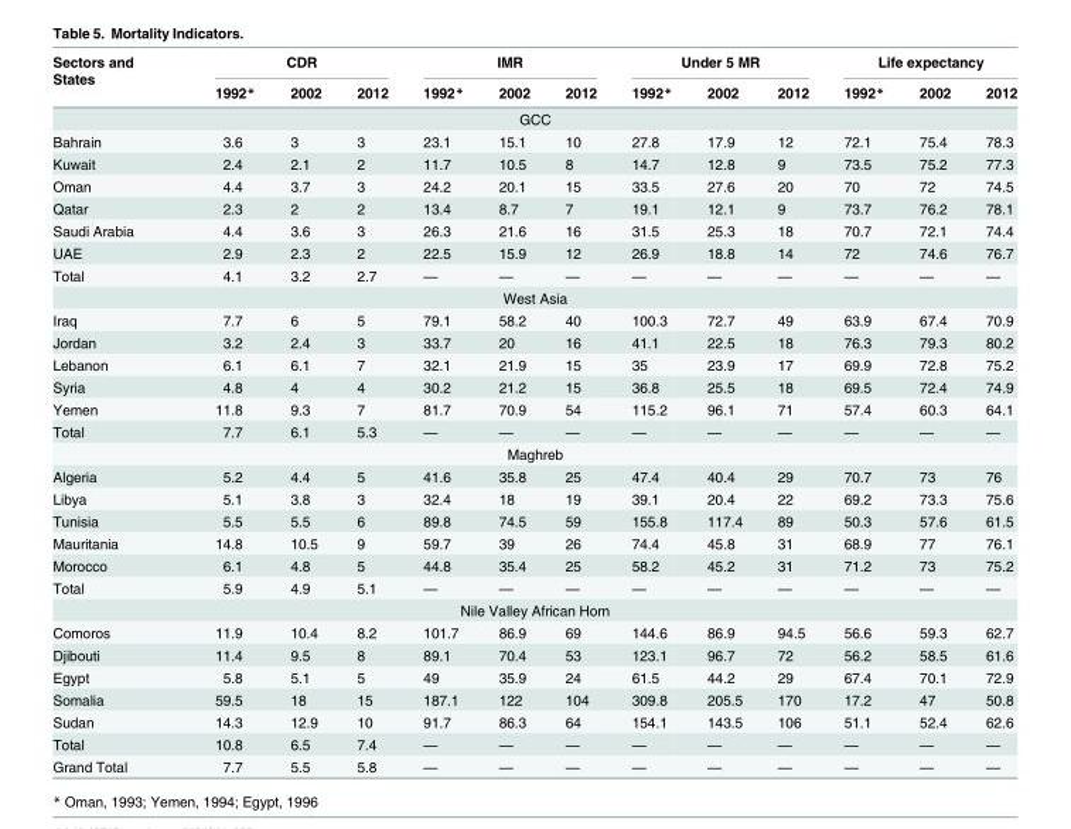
<table><thead><tr><td rowspan="2">Sectors and States</td><td colspan="3">CDR</td><td colspan="3">IMR</td><td colspan="3">Under 5 MR</td><td colspan="3">Life expectancy</td></tr><tr><td>1992*</td><td>2002</td><td>2012</td><td>1992*</td><td>2002</td><td>2012</td><td>1992*</td><td>2002</td><td>2012</td><td>1992*</td><td>2002</td><td>2012</td></tr></thead><tbody><tr><td colspan="13">GCC</td></tr><tr><td>Bahrain</td><td>3.6</td><td>3</td><td>3</td><td>23.1</td><td>15.1</td><td>10</td><td>27.8</td><td>17.9</td><td>12</td><td>72.1</td><td>75.4</td><td>78.3</td></tr><tr><td>Kuwait</td><td>2.4</td><td>2.1</td><td>2</td><td>11.7</td><td>10.5</td><td>8</td><td>14.7</td><td>12.8</td><td>9</td><td>73.5</td><td>75.2</td><td>77.3</td></tr><tr><td>Oman</td><td>4.4</td><td>3.7</td><td>3</td><td>24.2</td><td>20.1</td><td>15</td><td>33.5</td><td>27.6</td><td>20</td><td>70</td><td>72</td><td>74.5</td></tr><tr><td>Qatar</td><td>2.3</td><td>2</td><td>2</td><td>13.4</td><td>8.7</td><td>7</td><td>19.1</td><td>12.1</td><td>9</td><td>73.7</td><td>76.2</td><td>78.1</td></tr><tr><td>Saudi Arabia</td><td>4.4</td><td>3.6</td><td>3</td><td>26.3</td><td>21.6</td><td>16</td><td>31.5</td><td>25.3</td><td>18</td><td>70.7</td><td>72.1</td><td>74.4</td></tr><tr><td>UAE</td><td>2.9</td><td>2.3</td><td>2</td><td>22.5</td><td>15.9</td><td>12</td><td>26.9</td><td>18.8</td><td>14</td><td>72</td><td>74.6</td><td>76.7</td></tr><tr><td>Total</td><td>4.1</td><td>3.2</td><td>2.7</td><td>—</td><td>—</td><td>—</td><td>—</td><td>—</td><td>—</td><td>—</td><td>—</td><td>—</td></tr><tr><td colspan="13">West Asia</td></tr><tr><td>Iraq</td><td>7.7</td><td>6</td><td>5</td><td>79.1</td><td>58.2</td><td>40</td><td>100.3</td><td>72.7</td><td>49</td><td>63.9</td><td>67.4</td><td>70.9</td></tr><tr><td>Jordan</td><td>3.2</td><td>2.4</td><td>3</td><td>33.7</td><td>20</td><td>16</td><td>41.1</td><td>22.5</td><td>18</td><td>76.3</td><td>79.3</td><td>80.2</td></tr><tr><td>Lebanon</td><td>6.1</td><td>6.1</td><td>7</td><td>32.1</td><td>21.9</td><td>15</td><td>35</td><td>23.9</td><td>17</td><td>69.9</td><td>72.8</td><td>75.2</td></tr><tr><td>Syria</td><td>4.8</td><td>4</td><td>4</td><td>30.2</td><td>21.2</td><td>15</td><td>36.8</td><td>25.5</td><td>18</td><td>69.5</td><td>72.4</td><td>74.9</td></tr><tr><td>Yemen</td><td>11.8</td><td>9.3</td><td>7</td><td>81.7</td><td>70.9</td><td>54</td><td>115.2</td><td>96.1</td><td>71</td><td>57.4</td><td>60.3</td><td>64.1</td></tr><tr><td>Total</td><td>7.7</td><td>6.1</td><td>5.3</td><td>—</td><td>—</td><td>—</td><td>—</td><td>—</td><td>—</td><td>—</td><td>—</td><td>—</td></tr><tr><td colspan="13">Maghreb</td></tr><tr><td>Algeria</td><td>5.2</td><td>4.4</td><td>5</td><td>41.6</td><td>35.8</td><td>25</td><td>47.4</td><td>40.4</td><td>29</td><td>70.7</td><td>73</td><td>76</td></tr><tr><td>Libya</td><td>5.1</td><td>3.8</td><td>3</td><td>32.4</td><td>18</td><td>19</td><td>39.1</td><td>20.4</td><td>22</td><td>69.2</td><td>73.3</td><td>75.6</td></tr><tr><td>Tunisia</td><td>5.5</td><td>5.5</td><td>6</td><td>89.8</td><td>74.5</td><td>59</td><td>155.8</td><td>117.4</td><td>89</td><td>50.3</td><td>57.6</td><td>61.5</td></tr><tr><td>Mauritania</td><td>14.8</td><td>10.5</td><td>9</td><td>59.7</td><td>39</td><td>26</td><td>74.4</td><td>45.8</td><td>31</td><td>68.9</td><td>77</td><td>76.1</td></tr><tr><td>Morocco</td><td>6.1</td><td>4.8</td><td>5</td><td>44.8</td><td>35.4</td><td>25</td><td>58.2</td><td>45.2</td><td>31</td><td>71.2</td><td>73</td><td>75.2</td></tr><tr><td>Total</td><td>5.9</td><td>4.9</td><td>5.1</td><td>—</td><td>—</td><td>—</td><td>—</td><td>—</td><td>—</td><td>—</td><td>—</td><td>—</td></tr><tr><td colspan="13">Nile Valley African Horn</td></tr><tr><td>Comoros</td><td>11.9</td><td>10.4</td><td>8.2</td><td>101.7</td><td>86.9</td><td>69</td><td>144.6</td><td>86.9</td><td>94.5</td><td>56.6</td><td>59.3</td><td>62.7</td></tr><tr><td>Djibouti</td><td>11.4</td><td>9.5</td><td>8</td><td>89.1</td><td>70.4</td><td>53</td><td>123.1</td><td>96.7</td><td>72</td><td>56.2</td><td>58.5</td><td>61.6</td></tr><tr><td>Egypt</td><td>5.8</td><td>5.1</td><td>5</td><td>49</td><td>35.9</td><td>24</td><td>61.5</td><td>44.2</td><td>29</td><td>67.4</td><td>70.1</td><td>72.9</td></tr><tr><td>Somalia</td><td>59.5</td><td>18</td><td>15</td><td>187.1</td><td>122</td><td>104</td><td>309.8</td><td>205.5</td><td>170</td><td>17.2</td><td>47</td><td>50.8</td></tr><tr><td>Sudan</td><td>14.3</td><td>12.9</td><td>10</td><td>91.7</td><td>86.3</td><td>64</td><td>154.1</td><td>143.5</td><td>106</td><td>51.1</td><td>52.4</td><td>62.6</td></tr><tr><td>Total</td><td>10.8</td><td>6.5</td><td>7.4</td><td>—</td><td>—</td><td>—</td><td>—</td><td>—</td><td>—</td><td>—</td><td>—</td><td>—</td></tr><tr><td>Grand Total</td><td>7.7</td><td>5.5</td><td>5.8</td><td>—</td><td>—</td><td>—</td><td>—</td><td>—</td><td>—</td><td>—</td><td>—</td><td>—</td></tr></tbody></table>